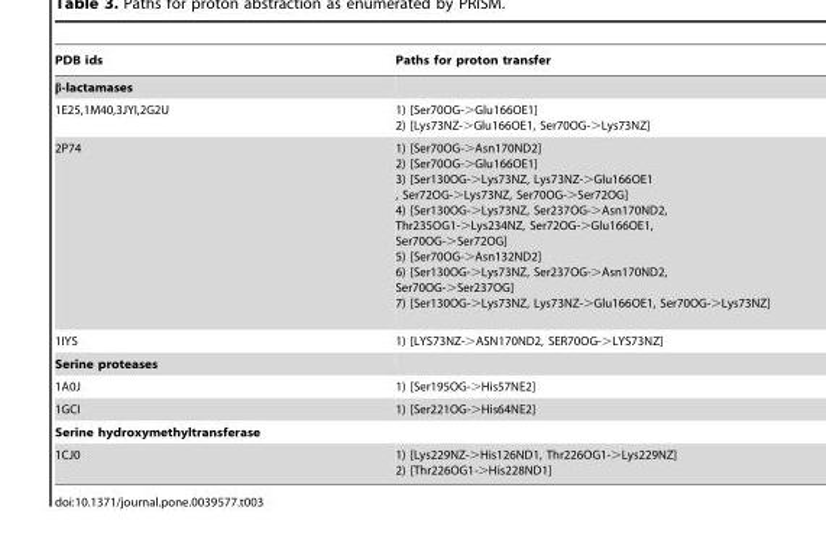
<table><thead><tr><td>PDB ids</td><td>Paths for proton transfer</td></tr></thead><tbody><tr><td colspan="2">β-lactamases</td></tr><tr><td>1E25,1M40,3JYI,2G2U</td><td>1) [Ser70OG-&gt;Glu166OE1] 2) [Lys73NZ-&gt;Glu166OE1, Ser70OG-&gt;Lys73NZ]</td></tr><tr><td>2P74</td><td>1) [Ser70OG-&gt;Asn170ND2] 2) [Ser70OG-&gt;Glu166OE1] 3) [Ser130OG-&gt;Lys73NZ, Lys73NZ-&gt;Glu166OE1 , Ser72OG-&gt;Lys73NZ, Ser70OG-&gt;Ser72OG] 4) [Ser130OG-&gt;Lys73NZ, Ser237OG-&gt;Asn170ND2, Thr235OG1-&gt;Lys234NZ, Ser72OG-&gt;Glu166OE1, Ser70OG-&gt;Ser72OG] 5) [Ser70OG-&gt;Asn132ND2] 6) [Ser130OG-&gt;Lys73NZ, Ser237OG-&gt;Asn170ND2, Ser70OG-&gt;Ser237OG] 7) [Ser130OG-&gt;Lys73NZ, Lys73NZ-&gt;Glu166OE1, Ser70OG-&gt;Lys73NZ]</td></tr><tr><td>1IYS</td><td>1) [LYS73NZ-&gt;ASN170ND2, SER70OG-&gt;LYS73NZ]</td></tr><tr><td colspan="2">Serine proteases</td></tr><tr><td>1A0J</td><td>1) [Ser195OG-&gt;His57NE2]</td></tr><tr><td>1GCI</td><td>1) [Ser221OG-&gt;His64NE2]</td></tr><tr><td colspan="2">Serine hydroxymethyltransferase</td></tr><tr><td>1CJ0</td><td>1) [Lys229NZ-&gt;His126ND1, Thr226OG1-&gt;Lys229NZ] 2) [Thr226OG1-&gt;His228ND1]</td></tr></tbody></table>